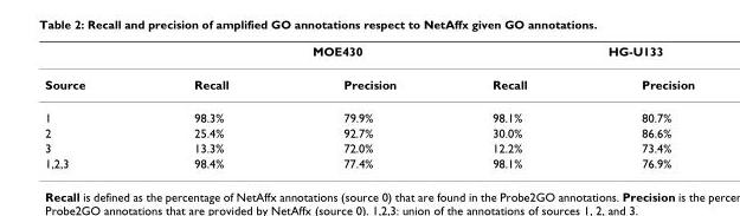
<table><thead><tr><td rowspan="2">Source</td><td colspan="2">MOE430</td><td colspan="2">HG-U133</td></tr><tr><td>Recall</td><td>Precision</td><td>Recall</td><td>Precision</td></tr></thead><tbody><tr><td>1</td><td>98.3%</td><td>79.9%</td><td>98.1%</td><td>80.7%</td></tr><tr><td>2</td><td>25.4%</td><td>92.7%</td><td>30.0%</td><td>86.6%</td></tr><tr><td>3</td><td>13.3%</td><td>72.0%</td><td>12.2%</td><td>73.4%</td></tr><tr><td>1,2,3</td><td>98.4%</td><td>77.4%</td><td>98.1%</td><td>76.9%</td></tr></tbody></table>